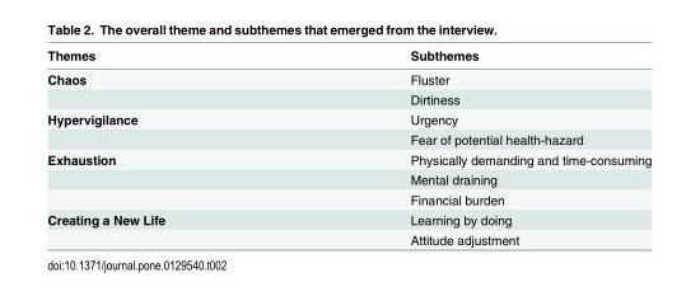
<table><thead><tr><td>Themes</td><td>Subthemes</td></tr></thead><tbody><tr><td rowspan="2">Chaos</td><td>Fluster</td></tr><tr><td>Dirtiness</td></tr><tr><td rowspan="2">Hypervigilance</td><td>Urgency</td></tr><tr><td>Fear of potential health-hazard</td></tr><tr><td rowspan="3">Exhaustion</td><td>Physically demanding and time-consuming</td></tr><tr><td>Mental draining</td></tr><tr><td>Financial burden</td></tr><tr><td rowspan="2">Creating a New Life</td><td>Learning by doing</td></tr><tr><td>Attitude adjustment</td></tr></tbody></table>